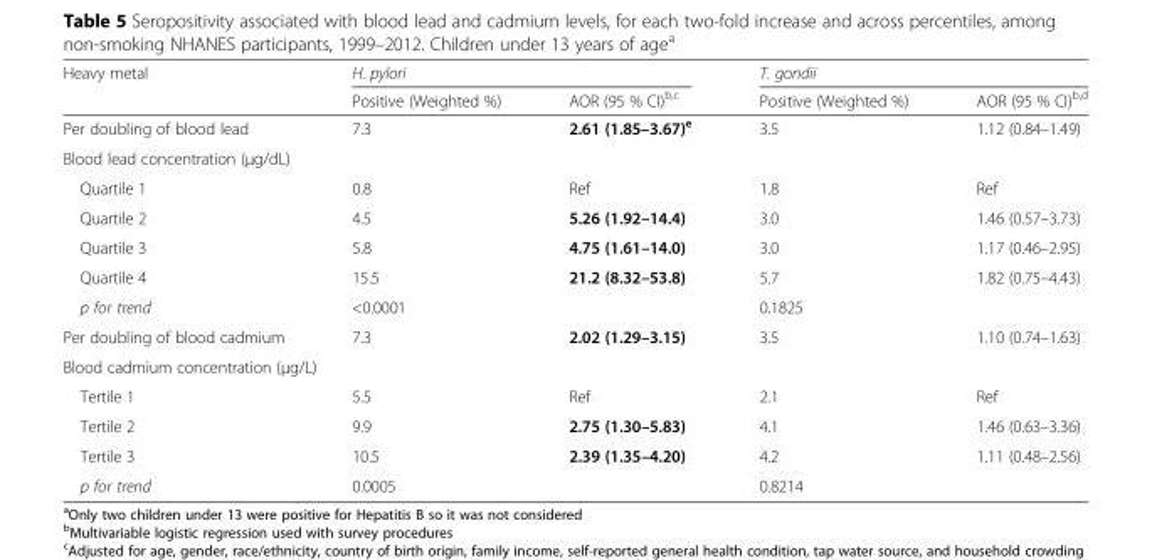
<table><thead><tr><td rowspan="2">Heavy metal</td><td colspan="2">H. pylori</td><td colspan="2">T. gondii</td></tr><tr><td>Positive (Weighted %)</td><td>AOR (95 % CI)<sup>b,c</sup></td><td>Positive (Weighted %)</td><td>AOR (95 % CI)<sup>b,d</sup></td></tr></thead><tbody><tr><td>Per doubling of blood lead</td><td>7.3</td><td>2.61 (1.85–3.67)<sup>e</sup></td><td>3.5</td><td>1.12 (0.84–1.49)</td></tr><tr><td colspan="5">Blood lead concentration (μg/dL)</td></tr><tr><td>Quartile 1</td><td>0.8</td><td>Ref</td><td>1.8</td><td>Ref</td></tr><tr><td>Quartile 2</td><td>4.5</td><td>5.26 (1.92–14.4)</td><td>3.0</td><td>1.46 (0.57–3.73)</td></tr><tr><td>Quartile 3</td><td>5.8</td><td>4.75 (1.61–14.0)</td><td>3.0</td><td>1.17 (0.46–2.95)</td></tr><tr><td>Quartile 4</td><td>15.5</td><td>21.2 (8.32–53.8)</td><td>5.7</td><td>1.82 (0.75–4.43)</td></tr><tr><td>p for trend</td><td colspan="2">&lt;0.0001</td><td colspan="2">0.1825</td></tr><tr><td>Per doubling of blood cadmium</td><td>7.3</td><td>2.02 (1.29–3.15)</td><td>3.5</td><td>1.10 (0.74–1.63)</td></tr><tr><td colspan="5">Blood cadmium concentration (μg/L)</td></tr><tr><td>Tertile 1</td><td>5.5</td><td>Ref</td><td>2.1</td><td>Ref</td></tr><tr><td>Tertile 2</td><td>9.9</td><td>2.75 (1.30–5.83)</td><td>4.1</td><td>1.46 (0.63–3.36)</td></tr><tr><td>Tertile 3</td><td>10.5</td><td>2.39 (1.35–4.20)</td><td>4.2</td><td>1.11 (0.48–2.56)</td></tr><tr><td>p for trend</td><td colspan="2">0.0005</td><td colspan="2">0.8214</td></tr></tbody></table>